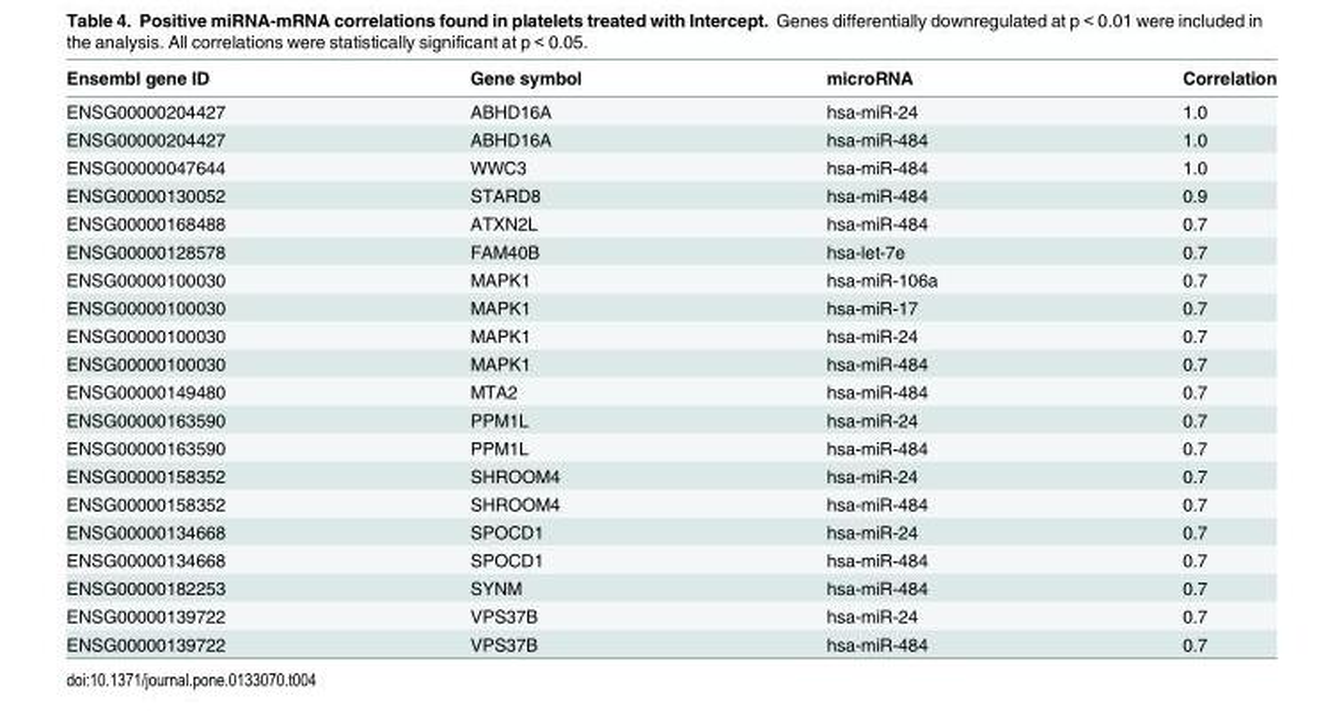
<table><thead><tr><td>Ensembl gene ID</td><td>Gene symbol</td><td>microRNA</td><td>Correlation</td></tr></thead><tbody><tr><td>ENSG00000204427</td><td>ABHD16A</td><td>hsa-miR-24</td><td>1.0</td></tr><tr><td>ENSG00000204427</td><td>ABHD16A</td><td>hsa-miR-484</td><td>1.0</td></tr><tr><td>ENSG00000047644</td><td>WWC3</td><td>hsa-miR-484</td><td>1.0</td></tr><tr><td>ENSG00000130052</td><td>STARD8</td><td>hsa-miR-484</td><td>0.9</td></tr><tr><td>ENSG00000168488</td><td>ATXN2L</td><td>hsa-miR-484</td><td>0.7</td></tr><tr><td>ENSG00000128578</td><td>FAM40B</td><td>hsa-let-7e</td><td>0.7</td></tr><tr><td>ENSG00000100030</td><td>MAPK1</td><td>hsa-miR-106a</td><td>0.7</td></tr><tr><td>ENSG00000100030</td><td>MAPK1</td><td>hsa-miR-17</td><td>0.7</td></tr><tr><td>ENSG00000100030</td><td>MAPK1</td><td>hsa-miR-24</td><td>0.7</td></tr><tr><td>ENSG00000100030</td><td>MAPK1</td><td>hsa-miR-484</td><td>0.7</td></tr><tr><td>ENSG00000149480</td><td>MTA2</td><td>hsa-miR-484</td><td>0.7</td></tr><tr><td>ENSG00000163590</td><td>PPM1L</td><td>hsa-miR-24</td><td>0.7</td></tr><tr><td>ENSG00000163590</td><td>PPM1L</td><td>hsa-miR-484</td><td>0.7</td></tr><tr><td>ENSG00000158352</td><td>SHROOM4</td><td>hsa-miR-24</td><td>0.7</td></tr><tr><td>ENSG00000158352</td><td>SHROOM4</td><td>hsa-miR-484</td><td>0.7</td></tr><tr><td>ENSG00000134668</td><td>SPOCD1</td><td>hsa-miR-24</td><td>0.7</td></tr><tr><td>ENSG00000134668</td><td>SPOCD1</td><td>hsa-miR-484</td><td>0.7</td></tr><tr><td>ENSG00000182253</td><td>SYNM</td><td>hsa-miR-484</td><td>0.7</td></tr><tr><td>ENSG00000139722</td><td>VPS37B</td><td>hsa-miR-24</td><td>0.7</td></tr><tr><td>ENSG00000139722</td><td>VPS37B</td><td>hsa-miR-484</td><td>0.7</td></tr></tbody></table>